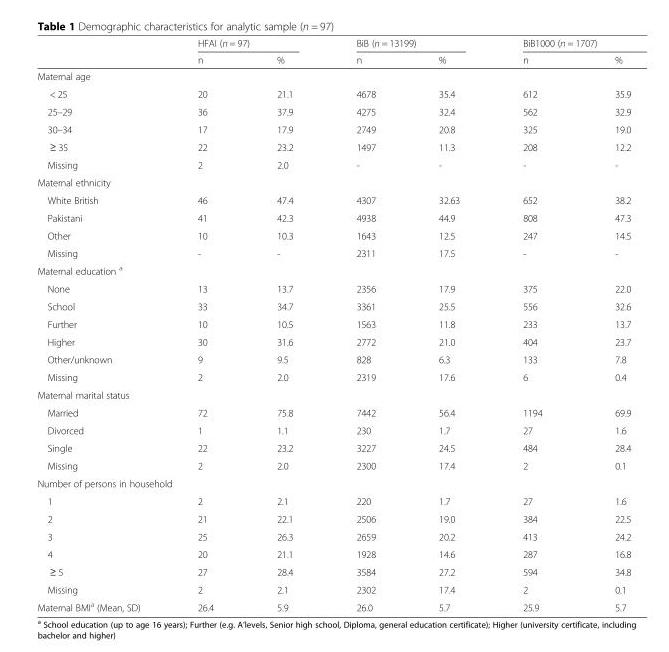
<table><thead><tr><td rowspan="2"></td><td colspan="2">HFAI (n = 97)</td><td colspan="2">BiB (n = 13199)</td><td colspan="2">BiB1000 (n = 1707)</td></tr><tr><td>n</td><td>%</td><td>n</td><td>%</td><td>n</td><td>%</td></tr></thead><tbody><tr><td colspan="7">Maternal age</td></tr><tr><td>&lt; 25</td><td>20</td><td>21.1</td><td>4678</td><td>35.4</td><td>612</td><td>35.9</td></tr><tr><td>25–29</td><td>36</td><td>37.9</td><td>4275</td><td>32.4</td><td>562</td><td>32.9</td></tr><tr><td>30–34</td><td>17</td><td>17.9</td><td>2749</td><td>20.8</td><td>325</td><td>19.0</td></tr><tr><td>≥ 35</td><td>22</td><td>23.2</td><td>1497</td><td>11.3</td><td>208</td><td>12.2</td></tr><tr><td>Missing</td><td>2</td><td>2.0</td><td>-</td><td>-</td><td>-</td><td>-</td></tr><tr><td colspan="7">Maternal ethnicity</td></tr><tr><td>White British</td><td>46</td><td>47.4</td><td>4307</td><td>32.63</td><td>652</td><td>38.2</td></tr><tr><td>Pakistani</td><td>41</td><td>42.3</td><td>4938</td><td>44.9</td><td>808</td><td>47.3</td></tr><tr><td>Other</td><td>10</td><td>10.3</td><td>1643</td><td>12.5</td><td>247</td><td>14.5</td></tr><tr><td>Missing</td><td>-</td><td>-</td><td>2311</td><td>17.5</td><td>-</td><td>-</td></tr><tr><td colspan="7">Maternal education <sup>a</sup></td></tr><tr><td>None</td><td>13</td><td>13.7</td><td>2356</td><td>17.9</td><td>375</td><td>22.0</td></tr><tr><td>School</td><td>33</td><td>34.7</td><td>3361</td><td>25.5</td><td>556</td><td>32.6</td></tr><tr><td>Further</td><td>10</td><td>10.5</td><td>1563</td><td>11.8</td><td>233</td><td>13.7</td></tr><tr><td>Higher</td><td>30</td><td>31.6</td><td>2772</td><td>21.0</td><td>404</td><td>23.7</td></tr><tr><td>Other/unknown</td><td>9</td><td>9.5</td><td>828</td><td>6.3</td><td>133</td><td>7.8</td></tr><tr><td>Missing</td><td>2</td><td>2.0</td><td>2319</td><td>17.6</td><td>6</td><td>0.4</td></tr><tr><td colspan="7">Maternal marital status</td></tr><tr><td>Married</td><td>72</td><td>75.8</td><td>7442</td><td>56.4</td><td>1194</td><td>69.9</td></tr><tr><td>Divorced</td><td>1</td><td>1.1</td><td>230</td><td>1.7</td><td>27</td><td>1.6</td></tr><tr><td>Single</td><td>22</td><td>23.2</td><td>3227</td><td>24.5</td><td>484</td><td>28.4</td></tr><tr><td>Missing</td><td>2</td><td>2.0</td><td>2300</td><td>17.4</td><td>2</td><td>0.1</td></tr><tr><td colspan="7">Number of persons in household</td></tr><tr><td>1</td><td>2</td><td>2.1</td><td>220</td><td>1.7</td><td>27</td><td>1.6</td></tr><tr><td>2</td><td>21</td><td>22.1</td><td>2506</td><td>19.0</td><td>384</td><td>22.5</td></tr><tr><td>3</td><td>25</td><td>26.3</td><td>2659</td><td>20.2</td><td>413</td><td>24.2</td></tr><tr><td>4</td><td>20</td><td>21.1</td><td>1928</td><td>14.6</td><td>287</td><td>16.8</td></tr><tr><td>≥ 5</td><td>27</td><td>28.4</td><td>3584</td><td>27.2</td><td>594</td><td>34.8</td></tr><tr><td>Missing</td><td>2</td><td>2.1</td><td>2302</td><td>17.4</td><td>2</td><td>0.1</td></tr><tr><td>Maternal BMI<sup>a</sup> (Mean, SD)</td><td>26.4</td><td>5.9</td><td>26.0</td><td>5.7</td><td>25.9</td><td>5.7</td></tr></tbody></table>